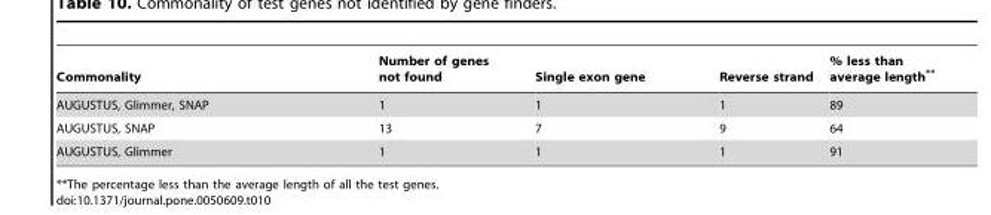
<table><thead><tr><td>Commonality</td><td>Number of genes not found</td><td>Single exon gene</td><td>Reverse strand</td><td>% less than average length**</td></tr></thead><tbody><tr><td>AUGUSTUS, Glimmer, SNAP</td><td>1</td><td>1</td><td>1</td><td>89</td></tr><tr><td>AUGUSTUS, SNAP</td><td>13</td><td>7</td><td>9</td><td>64</td></tr><tr><td>AUGUSTUS, Glimmer</td><td>1</td><td>1</td><td>1</td><td>91</td></tr></tbody></table>